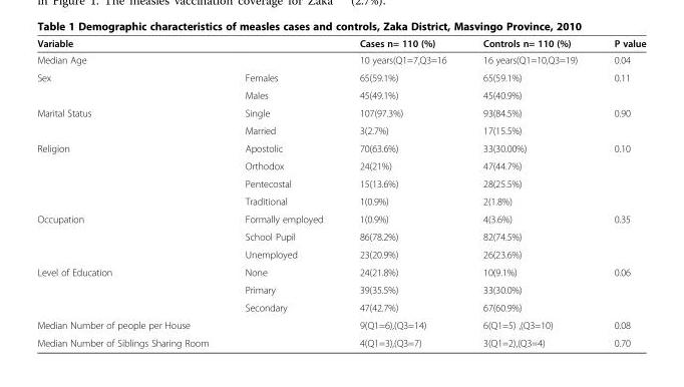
<table><thead><tr><td>Variable</td><td></td><td>Cases n= 110 (%)</td><td>Controls n= 110 (%)</td><td>P value</td></tr></thead><tbody><tr><td>Median Age</td><td></td><td>10 years(Q1=7,Q3=16</td><td>16 years(Q1=10,Q3=19)</td><td>0.04</td></tr><tr><td rowspan="2">Sex</td><td>Females</td><td>65(59.1%)</td><td>65(59.1%)</td><td>0.11</td></tr><tr><td>Males</td><td>45(49.1%)</td><td>45(40.9%)</td><td></td></tr><tr><td rowspan="2">Marital Status</td><td>Single</td><td>107(97.3%)</td><td>93(84.5%)</td><td>0.90</td></tr><tr><td>Married</td><td>3(2.7%)</td><td>17(15.5%)</td><td></td></tr><tr><td rowspan="4">Religion</td><td>Apostolic</td><td>70(63.6%)</td><td>33(30.00%)</td><td>0.10</td></tr><tr><td>Orthodox</td><td>24(21%)</td><td>47(44.7%)</td><td></td></tr><tr><td>Pentecostal</td><td>15(13.6%)</td><td>28(25.5%)</td><td></td></tr><tr><td>Traditional</td><td>1(0.9%)</td><td>2(1.8%)</td><td></td></tr><tr><td rowspan="3">Occupation</td><td>Formally employed</td><td>1(0.9%)</td><td>4(3.6%)</td><td>0.35</td></tr><tr><td>School Pupil</td><td>86(78.2%)</td><td>82(74.5%)</td><td></td></tr><tr><td>Unemployed</td><td>23(20.9%)</td><td>26(23.6%)</td><td></td></tr><tr><td rowspan="3">Level of Education</td><td>None</td><td>24(21.8%)</td><td>10(9.1%)</td><td>0.06</td></tr><tr><td>Primary</td><td>39(35.5%)</td><td>33(30.0%)</td><td></td></tr><tr><td>Secondary</td><td>47(42.7%)</td><td>67(60.9%)</td><td></td></tr><tr><td>Median Number of people per House</td><td></td><td>9(Q1=6),(Q3=14)</td><td>6(Q1=5) ,(Q3=10)</td><td>0.08</td></tr><tr><td>Median Number of Siblings Sharing Room</td><td></td><td>4(Q1=3),(Q3=7)</td><td>3(Q1=2),(Q3=4)</td><td>0.70</td></tr></tbody></table>